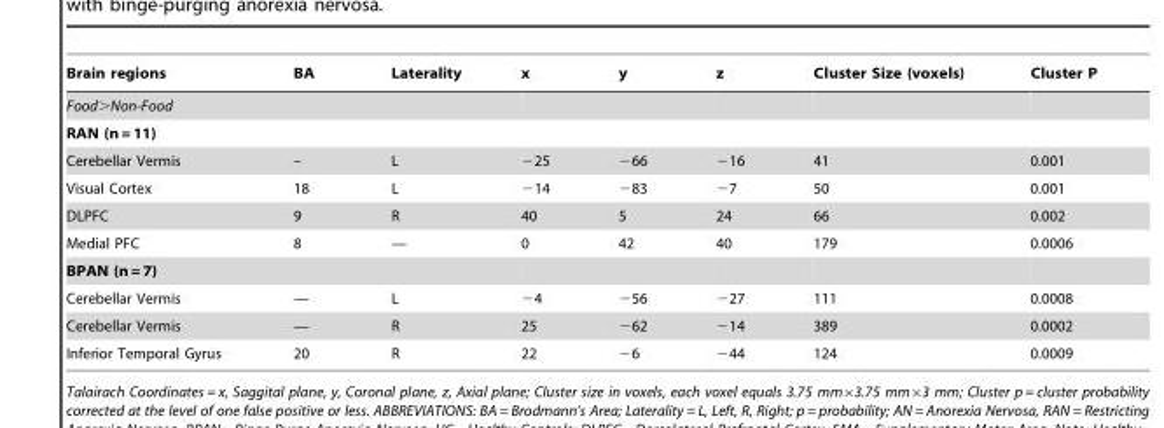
<table><thead><tr><td>Brain regions</td><td>BA</td><td>Laterality</td><td>x</td><td>y</td><td>z</td><td>Cluster Size (voxels)</td><td>Cluster P</td></tr></thead><tbody><tr><td colspan="8">Food&gt;Non-Food</td></tr><tr><td colspan="8">RAN (n = 11)</td></tr><tr><td>Cerebellar Vermis</td><td>–</td><td>L</td><td>−25</td><td>−66</td><td>−16</td><td>41</td><td>0.001</td></tr><tr><td>Visual Cortex</td><td>18</td><td>L</td><td>−14</td><td>−83</td><td>−7</td><td>50</td><td>0.001</td></tr><tr><td>DLPFC</td><td>9</td><td>R</td><td>40</td><td>5</td><td>24</td><td>66</td><td>0.002</td></tr><tr><td>Medial PFC</td><td>8</td><td>—</td><td>0</td><td>42</td><td>40</td><td>179</td><td>0.0006</td></tr><tr><td colspan="8">BPAN (n = 7)</td></tr><tr><td>Cerebellar Vermis</td><td>—</td><td>L</td><td>−4</td><td>−56</td><td>−27</td><td>111</td><td>0.0008</td></tr><tr><td>Cerebellar Vermis</td><td>—</td><td>R</td><td>25</td><td>−62</td><td>−14</td><td>389</td><td>0.0002</td></tr><tr><td>Inferior Temporal Gyrus</td><td>20</td><td>R</td><td>22</td><td>−6</td><td>−44</td><td>124</td><td>0.0009</td></tr></tbody></table>